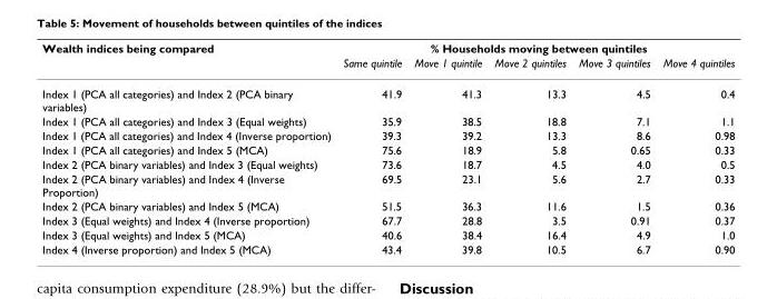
<table><thead><tr><td rowspan="2">Wealth indices being compared</td><td colspan="5">% Households moving between quintiles</td></tr><tr><td>Same quintile</td><td>Move 1 quintile</td><td>Move 2 quintiles</td><td>Move 3 quintiles</td><td>Move 4 quintiles</td></tr></thead><tbody><tr><td>Index 1 (PCA all categories) and Index 2 (PCA binary variables)</td><td>41.9</td><td>41.3</td><td>13.3</td><td>4.5</td><td>0.4</td></tr><tr><td>Index 1 (PCA all categories) and Index 3 (Equal weights)</td><td>35.9</td><td>38.5</td><td>18.8</td><td>7.1</td><td>1.1</td></tr><tr><td>Index 1 (PCA all categories) and Index 4 (Inverse proportion)</td><td>39.3</td><td>39.2</td><td>13.3</td><td>8.6</td><td>0.98</td></tr><tr><td>Index 1 (PCA all categories) and Index 5 (MCA)</td><td>75.6</td><td>18.9</td><td>5.8</td><td>0.65</td><td>0.33</td></tr><tr><td>Index 2 (PCA binary variables) and Index 3 (Equal weights)</td><td>73.6</td><td>18.7</td><td>4.5</td><td>4.0</td><td>0.5</td></tr><tr><td>Index 2 (PCA binary variables) and Index 4 (Inverse Proportion)</td><td>69.5</td><td>23.1</td><td>5.6</td><td>2.7</td><td>0.33</td></tr><tr><td>Index 2 (PCA binary variables) and Index 5 (MCA)</td><td>51.5</td><td>36.3</td><td>11.6</td><td>1.5</td><td>0.36</td></tr><tr><td>Index 3 (Equal weights) and Index 4 (Inverse proportion)</td><td>67.7</td><td>28.8</td><td>3.5</td><td>0.91</td><td>0.37</td></tr><tr><td>Index 3 (Equal weights) and Index 5 (MCA)</td><td>40.6</td><td>38.4</td><td>16.4</td><td>4.9</td><td>1.0</td></tr><tr><td>Index 4 (Inverse proportion) and Index 5 (MCA)</td><td>43.4</td><td>39.8</td><td>10.5</td><td>6.7</td><td>0.90</td></tr></tbody></table>